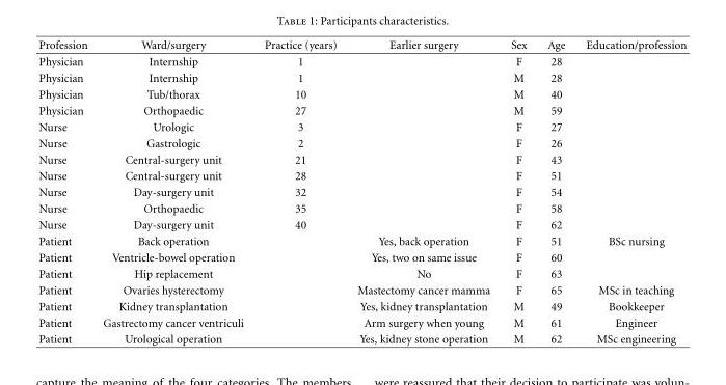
<table><thead><tr><td>Profession</td><td>Ward/surgery</td><td>Practice (years)</td><td>Earlier surgery</td><td>Sex</td><td>Age</td><td>Education/profession</td></tr></thead><tbody><tr><td>Physician</td><td>Internship</td><td>1</td><td></td><td>F</td><td>28</td><td></td></tr><tr><td>Physician</td><td>Internship</td><td>1</td><td></td><td>M</td><td>28</td><td></td></tr><tr><td>Physician</td><td>Tub/thorax</td><td>10</td><td></td><td>M</td><td>40</td><td></td></tr><tr><td>Physician</td><td>Orthopaedic</td><td>27</td><td></td><td>M</td><td>59</td><td></td></tr><tr><td>Nurse</td><td>Urologic</td><td>3</td><td></td><td>F</td><td>27</td><td></td></tr><tr><td>Nurse</td><td>Gastrologic</td><td>2</td><td></td><td>F</td><td>26</td><td></td></tr><tr><td>Nurse</td><td>Central-surgery unit</td><td>21</td><td></td><td>F</td><td>43</td><td></td></tr><tr><td>Nurse</td><td>Central-surgery unit</td><td>28</td><td></td><td>F</td><td>51</td><td></td></tr><tr><td>Nurse</td><td>Day-surgery unit</td><td>32</td><td></td><td>F</td><td>54</td><td></td></tr><tr><td>Nurse</td><td>Orthopaedic</td><td>35</td><td></td><td>F</td><td>58</td><td></td></tr><tr><td>Nurse</td><td>Day-surgery unit</td><td>40</td><td></td><td>F</td><td>62</td><td></td></tr><tr><td>Patient</td><td>Back operation</td><td></td><td>Yes, back operation</td><td>F</td><td>51</td><td>BSc nursing</td></tr><tr><td>Patient</td><td>Ventricle-bowel operation</td><td></td><td>Yes, two on same issue</td><td>F</td><td>60</td><td></td></tr><tr><td>Patient</td><td>Hip replacement</td><td></td><td>No</td><td>F</td><td>63</td><td></td></tr><tr><td>Patient</td><td>Ovaries hysterectomy</td><td></td><td>Mastectomy cancer mamma</td><td>F</td><td>65</td><td>MSc in teaching</td></tr><tr><td>Patient</td><td>Kidney transplantation</td><td></td><td>Yes, kidney transplantation</td><td>M</td><td>49</td><td>Bookkeeper</td></tr><tr><td>Patient</td><td>Gastrectomy cancer ventriculi</td><td></td><td>Arm surgery when young</td><td>M</td><td>61</td><td>Engineer</td></tr><tr><td>Patient</td><td>Urological operation</td><td></td><td>Yes, kidney stone operation</td><td>M</td><td>62</td><td>MSc engineering</td></tr></tbody></table>